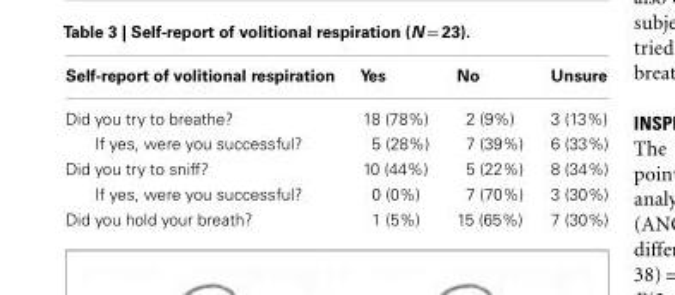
<table><thead><tr><td>Self-report of volitional respiration</td><td>Yes</td><td>No</td><td>Unsure</td></tr></thead><tbody><tr><td>Did you try to breathe?</td><td>18 (78%)</td><td>2 (9%)</td><td>3 (13%)</td></tr><tr><td>If yes, were you successful?</td><td>5 (28%)</td><td>7 (39%)</td><td>6 (33%)</td></tr><tr><td>Did you try to sniff?</td><td>10 (44%)</td><td>5 (22%)</td><td>8 (34%)</td></tr><tr><td>If yes, were you successful?</td><td>0 (0%)</td><td>7 (70%)</td><td>3 (30%)</td></tr><tr><td>Did you hold your breath?</td><td>1 (5%)</td><td>15 (65%)</td><td>7 (30%)</td></tr></tbody></table>